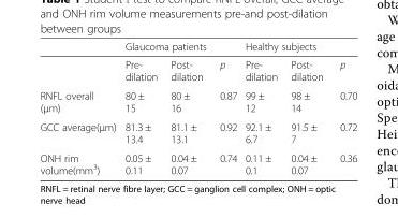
<table><thead><tr><td rowspan="2"></td><td colspan="2">Glaucoma patients</td><td rowspan="2">p</td><td colspan="2">Healthy subjects</td><td rowspan="2">p</td></tr><tr><td>Pre- dilation</td><td>Post- dilation</td><td>Pre- dilation</td><td>Post- dilation</td></tr></thead><tbody><tr><td>RNFL overall (μm)</td><td>80 ± 15</td><td>80 ± 16</td><td>0.87</td><td>99 ± 12</td><td>98 ± 14</td><td>0.70</td></tr><tr><td>GCC average(μm)</td><td>81.3 ± 13.4</td><td>81.1 ± 13.1</td><td>0.92</td><td>92.1 ± 6.7</td><td>91.5 ± 7</td><td>0.72</td></tr><tr><td>ONH rim volume(mm<sup>3</sup>)</td><td>0.05 ± 0.11</td><td>0.04 ± 0.07</td><td>0.74</td><td>0.11 ± 0.1</td><td>0.04 ± 0.07</td><td>0.36</td></tr></tbody></table>